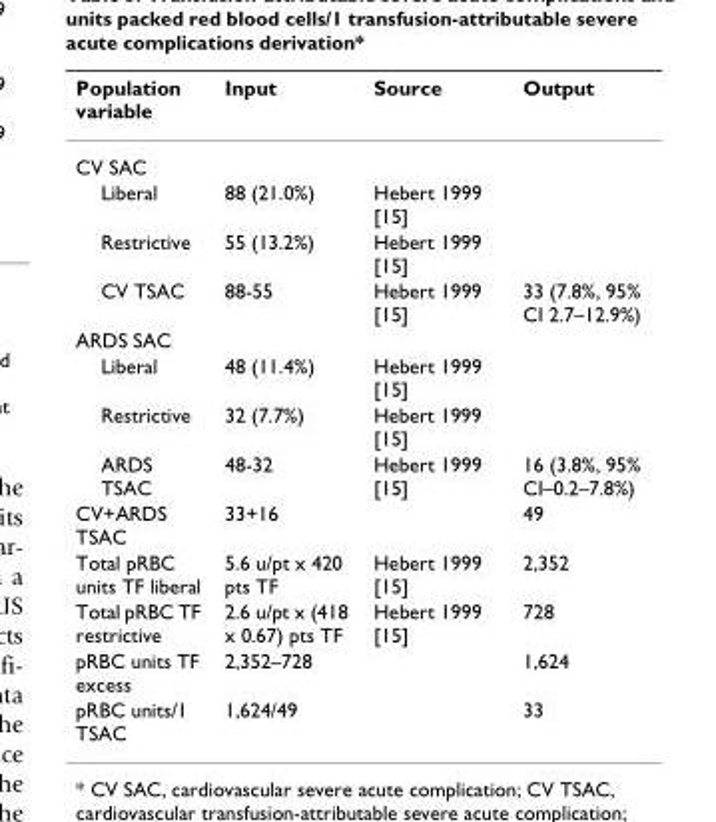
<table><thead><tr><td>Population variable</td><td>Input</td><td>Source</td><td>Output</td></tr></thead><tbody><tr><td colspan="4">CV SAC</td></tr><tr><td>Liberal</td><td>88 (21.0%)</td><td>Hebert 1999 [15]</td><td></td></tr><tr><td>Restrictive</td><td>55 (13.2%)</td><td>Hebert 1999 [15]</td><td></td></tr><tr><td>CV TSAC</td><td>88-55</td><td>Hebert 1999 [15]</td><td>33 (7.8%, 95% CI 2.7–12.9%)</td></tr><tr><td colspan="4">ARDS SAC</td></tr><tr><td>Liberal</td><td>48 (11.4%)</td><td>Hebert 1999 [15]</td><td></td></tr><tr><td>Restrictive</td><td>32 (7.7%)</td><td>Hebert 1999 [15]</td><td></td></tr><tr><td>ARDS TSAC</td><td>48-32</td><td>Hebert 1999 [15]</td><td>16 (3.8%, 95% CI–0.2–7.8%)</td></tr><tr><td>CV+ARDS TSAC</td><td>33+16</td><td></td><td>49</td></tr><tr><td>Total pRBC units TF liberal</td><td>5.6 u/pt x 420 pts TF</td><td>Hebert 1999 [15]</td><td>2,352</td></tr><tr><td>Total pRBC TF restrictive</td><td>2.6 u/pt x (418 x 0.67) pts TF</td><td>Hebert 1999 [15]</td><td>728</td></tr><tr><td>pRBC units TF excess</td><td>2,352–728</td><td></td><td>1,624</td></tr><tr><td>pRBC units/1 TSAC</td><td>1,624/49</td><td></td><td>33</td></tr></tbody></table>